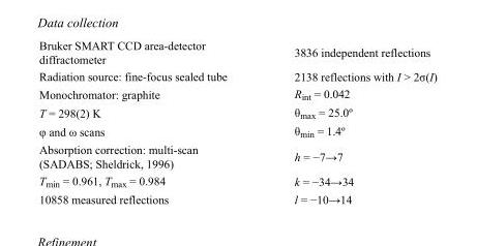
<table><tbody><tr><td>Bruker SMART CCD area-detector diffractometer</td><td>3836 independent reflections</td></tr><tr><td>Radiation source: fine-focus sealed tube</td><td>2138 reflections with I &gt; 2σ(I)</td></tr><tr><td>Monochromator: graphite</td><td>R<sub>int</sub> = 0.042</td></tr><tr><td>T = 298(2) K</td><td>θ<sub>max</sub> = 25.0º</td></tr><tr><td>φ and ω scans</td><td>θ<sub>min</sub> = 1.4º</td></tr><tr><td>Absorption correction: multi-scan (SADABS; Sheldrick, 1996)</td><td>h = −7→7</td></tr><tr><td>T<sub>min</sub> = 0.961, T<sub>max</sub> = 0.984</td><td>k = −34→34</td></tr><tr><td>10858 measured reflections</td><td>l = −10→14</td></tr></tbody></table>